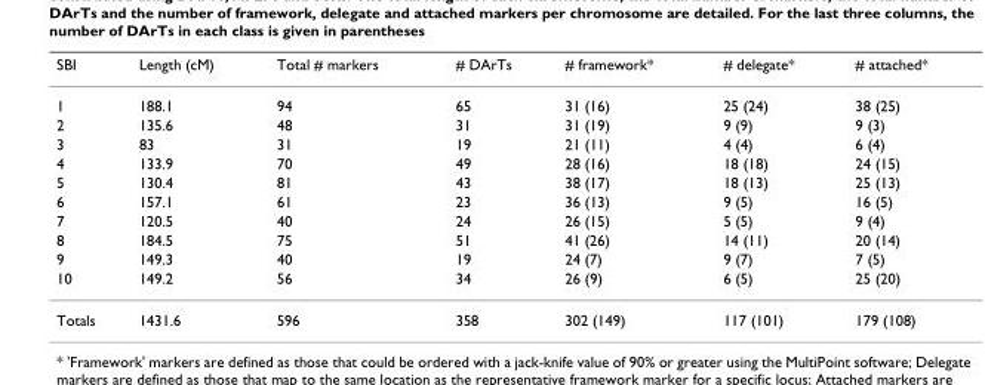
<table><thead><tr><td>SBI</td><td>Length (cM)</td><td>Total # markers</td><td># DArTs</td><td># framework*</td><td># delegate*</td><td># attached*</td></tr></thead><tbody><tr><td>1</td><td>188.1</td><td>94</td><td>65</td><td>31 (16)</td><td>25 (24)</td><td>38 (25)</td></tr><tr><td>2</td><td>135.6</td><td>48</td><td>31</td><td>31 (19)</td><td>9 (9)</td><td>9 (3)</td></tr><tr><td>3</td><td>83</td><td>31</td><td>19</td><td>21 (11)</td><td>4 (4)</td><td>6 (4)</td></tr><tr><td>4</td><td>133.9</td><td>70</td><td>49</td><td>28 (16)</td><td>18 (18)</td><td>24 (15)</td></tr><tr><td>5</td><td>130.4</td><td>81</td><td>43</td><td>38 (17)</td><td>18 (13)</td><td>25 (13)</td></tr><tr><td>6</td><td>157.1</td><td>61</td><td>23</td><td>36 (13)</td><td>9 (5)</td><td>16 (5)</td></tr><tr><td>7</td><td>120.5</td><td>40</td><td>24</td><td>26 (15)</td><td>5 (5)</td><td>9 (4)</td></tr><tr><td>8</td><td>184.5</td><td>75</td><td>51</td><td>41 (26)</td><td>14 (11)</td><td>20 (14)</td></tr><tr><td>9</td><td>149.3</td><td>40</td><td>19</td><td>24 (7)</td><td>9 (7)</td><td>7 (5)</td></tr><tr><td>10</td><td>149.2</td><td>56</td><td>34</td><td>26 (9)</td><td>6 (5)</td><td>25 (20)</td></tr><tr><td>Totals</td><td>1431.6</td><td>596</td><td>358</td><td>302 (149)</td><td>117 (101)</td><td>179 (108)</td></tr></tbody></table>